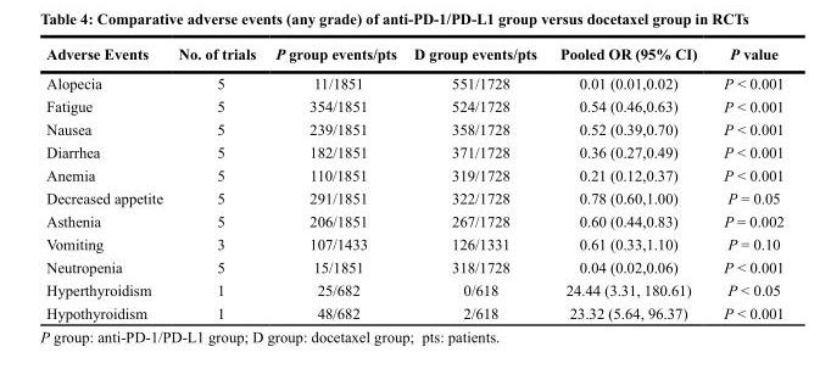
<table><thead><tr><td>Adverse Events</td><td>No. of trials</td><td>P group events/pts</td><td>D group events/pts</td><td>Pooled OR (95% CI)</td><td>P value</td></tr></thead><tbody><tr><td>Alopecia</td><td>5</td><td>11/1851</td><td>551/1728</td><td>0.01 (0.01,0.02)</td><td>P &lt; 0.001</td></tr><tr><td>Fatigue</td><td>5</td><td>354/1851</td><td>524/1728</td><td>0.54 (0.46,0.63)</td><td>P &lt; 0.001</td></tr><tr><td>Nausea</td><td>5</td><td>239/1851</td><td>358/1728</td><td>0.52 (0.39,0.70)</td><td>P &lt; 0.001</td></tr><tr><td>Diarrhea</td><td>5</td><td>182/1851</td><td>371/1728</td><td>0.36 (0.27,0.49)</td><td>P &lt; 0.001</td></tr><tr><td>Anemia</td><td>5</td><td>110/1851</td><td>319/1728</td><td>0.21 (0.12,0.37)</td><td>P &lt; 0.001</td></tr><tr><td>Decreased appetite</td><td>5</td><td>291/1851</td><td>322/1728</td><td>0.78 (0.60,1.00)</td><td>P = 0.05</td></tr><tr><td>Asthenia</td><td>5</td><td>206/1851</td><td>267/1728</td><td>0.60 (0.44,0.83)</td><td>P = 0.002</td></tr><tr><td>Vomiting</td><td>3</td><td>107/1433</td><td>126/1331</td><td>0.61 (0.33,1.10)</td><td>P = 0.10</td></tr><tr><td>Neutropenia</td><td>5</td><td>15/1851</td><td>318/1728</td><td>0.04 (0.02,0.06)</td><td>P &lt; 0.001</td></tr><tr><td>Hyperthyroidism</td><td>1</td><td>25/682</td><td>0/618</td><td>24.44 (3.31, 180.61)</td><td>P &lt; 0.05</td></tr><tr><td>Hypothyroidism</td><td>1</td><td>48/682</td><td>2/618</td><td>23.32 (5.64, 96.37)</td><td>P &lt; 0.001</td></tr></tbody></table>